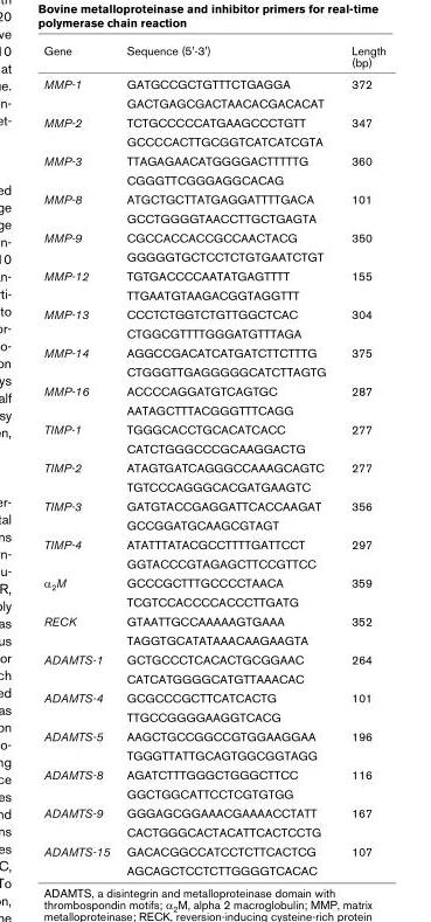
<table><thead><tr><td>Gene</td><td>Sequence (5&#x27;-3&#x27;)</td><td>Length (bp)</td></tr></thead><tbody><tr><td rowspan="2">MMP-1</td><td>GATGCCGCTGTTTCTGAGGA</td><td>372</td></tr><tr><td>GACTGAGCGACTAACACGACACAT</td><td></td></tr><tr><td rowspan="2">MMP-2</td><td>TCTGCCCCCATGAAGCCCTGTT</td><td>347</td></tr><tr><td>GCCCCACTTGCGGTCATCATCGTA</td><td></td></tr><tr><td rowspan="2">MMP-3</td><td>TTAGAGAACATGGGGACTTTTTG</td><td>360</td></tr><tr><td>CGGGTTCGGGAGGCACAG</td><td></td></tr><tr><td rowspan="2">MMP-8</td><td>ATGCTGCTTATGAGGATTTTGACA</td><td>101</td></tr><tr><td>GCCTGGGGTAACCTTGCTGAGTA</td><td></td></tr><tr><td rowspan="2">MMP-9</td><td>CGCCACCACCGCCAACTACG</td><td>350</td></tr><tr><td>GGGGGTGCTCCTCTGTGAATCTGT</td><td></td></tr><tr><td rowspan="2">MMP-12</td><td>TGTGACCCCAATATGAGTTTT</td><td>155</td></tr><tr><td>TTGAATGTAAGACGGTAGGTTT</td><td></td></tr><tr><td rowspan="2">MMP-13</td><td>CCCTCTGGTCTGTTGGCTCAC</td><td>304</td></tr><tr><td>CTGGCGTTTTGGGATGTTTAGA</td><td></td></tr><tr><td rowspan="2">MMP-14</td><td>AGGCCGACATCATGATCTTCTTTG</td><td>375</td></tr><tr><td>CTGGGTTGAGGGGGCATCTTAGTG</td><td></td></tr><tr><td rowspan="2">MMP-16</td><td>ACCCCAGGATGTCAGTGC</td><td>287</td></tr><tr><td>AATAGCTTTACGGGTTTCAGG</td><td></td></tr><tr><td rowspan="2">TIMP-1</td><td>TGGGCACCTGCACATCACC</td><td>277</td></tr><tr><td>CATCTGGGCCCGCAAGGACTG</td><td></td></tr><tr><td rowspan="2">TIMP-2</td><td>ATAGTGATCAGGGCCAAAGCAGTC</td><td>277</td></tr><tr><td>TGTCCCAGGGCACGATGAAGTC</td><td></td></tr><tr><td rowspan="2">TIMP-3</td><td>GATGTACCGAGGATTCACCAAGAT</td><td>356</td></tr><tr><td>GCCGGATGCAAGCGTAGT</td><td></td></tr><tr><td rowspan="2">TIMP-4</td><td>ATATTTATACGCCTTTTGATTCCT</td><td>297</td></tr><tr><td>GGTACCCGTAGAGCTTCCGTTCC</td><td></td></tr><tr><td rowspan="2">α2M</td><td>GCCCGCTTTGCCCCTAACA</td><td>359</td></tr><tr><td>TCGTCCACCCCACCCTTGATG</td><td></td></tr><tr><td rowspan="2">RECK</td><td>GTAATTGCCAAAAAGTGAAA</td><td>352</td></tr><tr><td>TAGGTGCATATAAACAAGAAGTA</td><td></td></tr><tr><td rowspan="2">ADAMTS-1</td><td>GCTGCCCTCACACTGCGGAAC</td><td>264</td></tr><tr><td>CATCATGGGGCATGTTAAACAC</td><td></td></tr><tr><td rowspan="2">ADAMTS-4</td><td>GCGCCCGCTTCATCACTG</td><td>101</td></tr><tr><td>TTGCCGGGGAAGGTCACG</td><td></td></tr><tr><td rowspan="2">ADAMTS-5</td><td>AAGCTGCCGGCCGTGGAAGGAA</td><td>196</td></tr><tr><td>TGGGTTATTGCAGTGGCGGTAGG</td><td></td></tr><tr><td rowspan="2">ADAMTS-8</td><td>AGATCTTTGGGCTGGGCTTCC</td><td>116</td></tr><tr><td>GGCTGGCATTCCTCGTGTGG</td><td></td></tr><tr><td rowspan="2">ADAMTS-9</td><td>GGGAGCGGAAACGAAAACCTATT</td><td>167</td></tr><tr><td>CACTGGGCACTACATTCACTCCTG</td><td></td></tr><tr><td rowspan="2">ADAMTS-15</td><td>GACACGGCCATCCTCTTCACTCG</td><td>107</td></tr><tr><td>AGCAGCTCCTCTTGGGGTCACAC</td><td></td></tr></tbody></table>